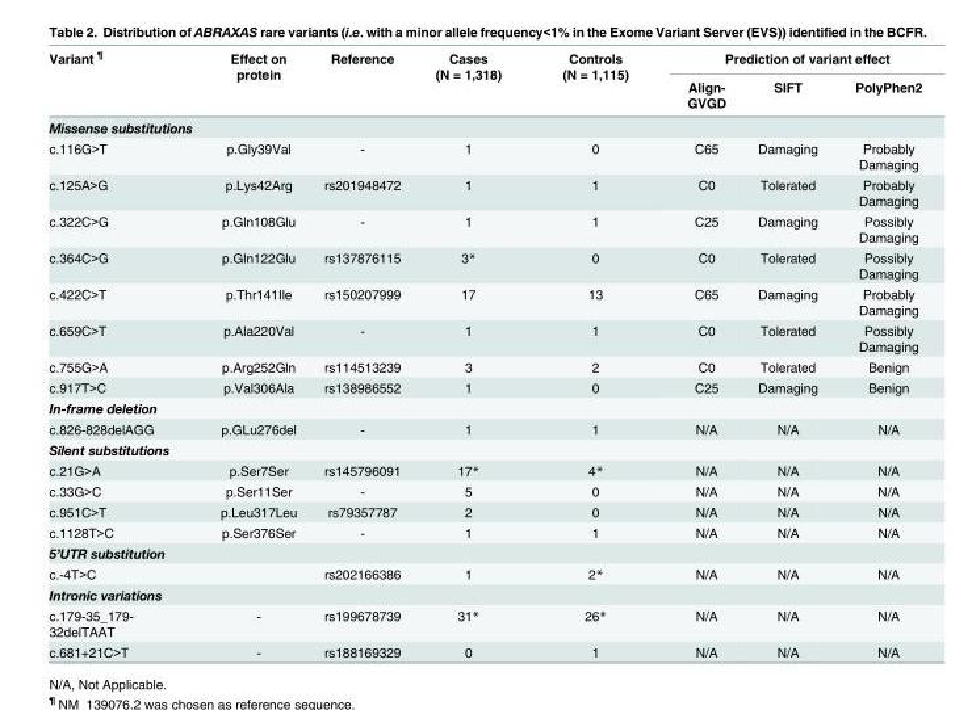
<table><thead><tr><td rowspan="2">Variant <sup>¶</sup></td><td rowspan="2">Effect on protein</td><td rowspan="2">Reference</td><td rowspan="2">Cases (N = 1,318)</td><td rowspan="2">Controls (N = 1,115)</td><td colspan="3">Prediction of variant effect</td></tr><tr><td>Align- GVGD</td><td>SIFT</td><td>PolyPhen2</td></tr></thead><tbody><tr><td colspan="8">Missense substitutions</td></tr><tr><td>c.116G&gt;T</td><td>p.Gly39Val</td><td>-</td><td>1</td><td>0</td><td>C65</td><td>Damaging</td><td>Probably Damaging</td></tr><tr><td>c.125A&gt;G</td><td>p.Lys42Arg</td><td>rs201948472</td><td>1</td><td>1</td><td>C0</td><td>Tolerated</td><td>Probably Damaging</td></tr><tr><td>c.322C&gt;G</td><td>p.Gln108Glu</td><td>-</td><td>1</td><td>1</td><td>C25</td><td>Damaging</td><td>Possibly Damaging</td></tr><tr><td>c.364C&gt;G</td><td>p.Gln122Glu</td><td>rs137876115</td><td>3*</td><td>0</td><td>C0</td><td>Tolerated</td><td>Possibly Damaging</td></tr><tr><td>c.422C&gt;T</td><td>p.Thr141Ile</td><td>rs150207999</td><td>17</td><td>13</td><td>C65</td><td>Damaging</td><td>Probably Damaging</td></tr><tr><td>c.659C&gt;T</td><td>p.Ala220Val</td><td>-</td><td>1</td><td>1</td><td>C0</td><td>Tolerated</td><td>Possibly Damaging</td></tr><tr><td>c.755G&gt;A</td><td>p.Arg252Gln</td><td>rs114513239</td><td>3</td><td>2</td><td>C0</td><td>Tolerated</td><td>Benign</td></tr><tr><td>c.917T&gt;C</td><td>p.Val306Ala</td><td>rs138986552</td><td>1</td><td>0</td><td>C25</td><td>Damaging</td><td>Benign</td></tr><tr><td colspan="8">In-frame deletion</td></tr><tr><td>c.826-828delAGG</td><td>p.GLu276del</td><td>-</td><td>1</td><td>1</td><td>N/A</td><td>N/A</td><td>N/A</td></tr><tr><td colspan="8">Silent substitutions</td></tr><tr><td>c.21G&gt;A</td><td>p.Ser7Ser</td><td>rs145796091</td><td>17*</td><td>4*</td><td>N/A</td><td>N/A</td><td>N/A</td></tr><tr><td>c.33G&gt;C</td><td>p.Ser11Ser</td><td>-</td><td>5</td><td>0</td><td>N/A</td><td>N/A</td><td>N/A</td></tr><tr><td>c.951C&gt;T</td><td>p.Leu317Leu</td><td>rs79357787</td><td>2</td><td>0</td><td>N/A</td><td>N/A</td><td>N/A</td></tr><tr><td>c.1128T&gt;C</td><td>p.Ser376Ser</td><td>-</td><td>1</td><td>1</td><td>N/A</td><td>N/A</td><td>N/A</td></tr><tr><td colspan="8">5’UTR substitution</td></tr><tr><td>c.-4T&gt;C</td><td></td><td>rs202166386</td><td>1</td><td>2*</td><td>N/A</td><td>N/A</td><td>N/A</td></tr><tr><td colspan="8">Intronic variations</td></tr><tr><td>c.179-35_179- 32delTAAT</td><td>-</td><td>rs199678739</td><td>31*</td><td>26*</td><td>N/A</td><td>N/A</td><td>N/A</td></tr><tr><td>c.681+21C&gt;T</td><td>-</td><td>rs188169329</td><td>0</td><td>1</td><td>N/A</td><td>N/A</td><td>N/A</td></tr></tbody></table>